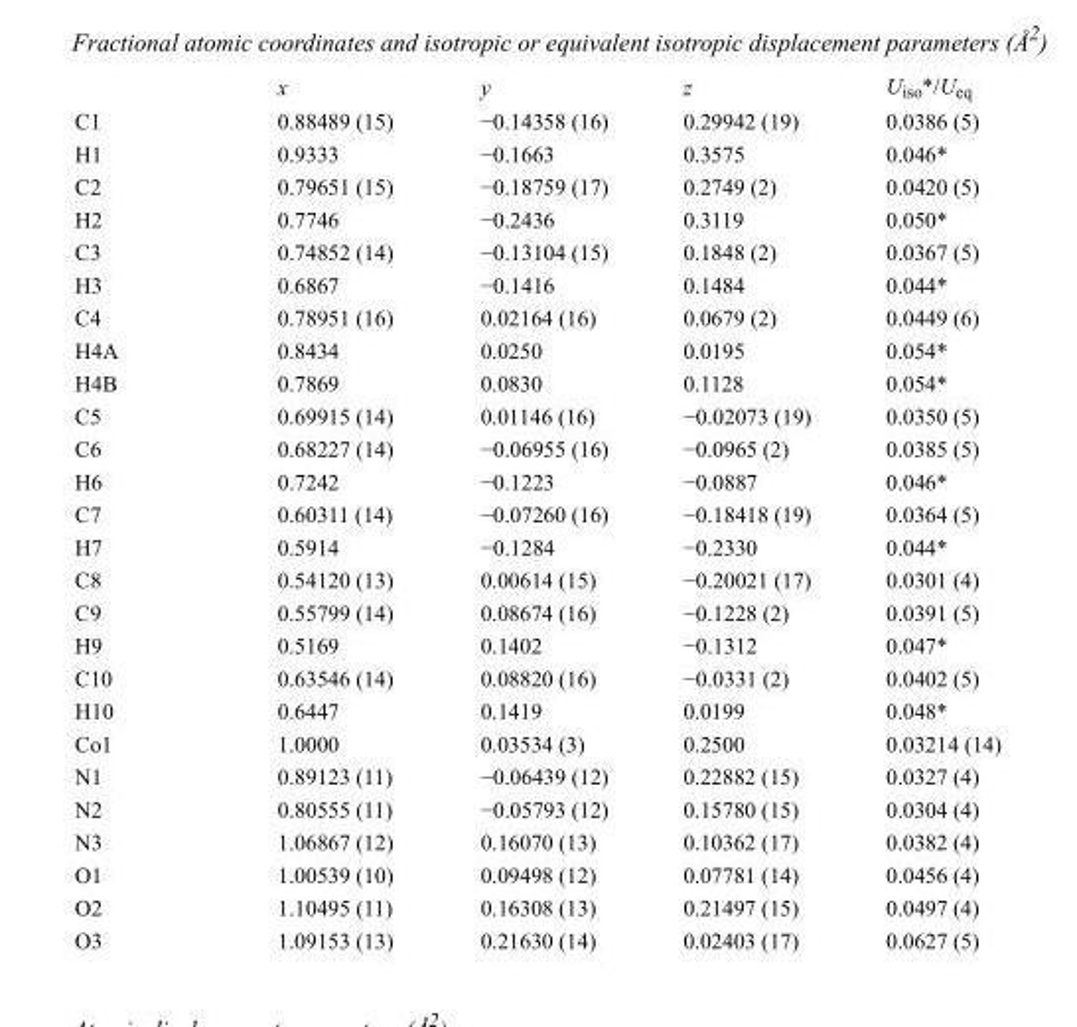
<table><thead><tr><td></td><td>x</td><td>y</td><td>z</td><td>U<sub>iso</sub>*/U<sub>eq</sub></td></tr></thead><tbody><tr><td>C1</td><td>0.88489 (15)</td><td>−0.14358 (16)</td><td>0.29942 (19)</td><td>0.0386 (5)</td></tr><tr><td>H1</td><td>0.9333</td><td>−0.1663</td><td>0.3575</td><td>0.046*</td></tr><tr><td>C2</td><td>0.79651 (15)</td><td>−0.18759 (17)</td><td>0.2749 (2)</td><td>0.0420 (5)</td></tr><tr><td>H2</td><td>0.7746</td><td>−0.2436</td><td>0.3119</td><td>0.050*</td></tr><tr><td>C3</td><td>0.74852 (14)</td><td>−0.13104 (15)</td><td>0.1848 (2)</td><td>0.0367 (5)</td></tr><tr><td>H3</td><td>0.6867</td><td>−0.1416</td><td>0.1484</td><td>0.044*</td></tr><tr><td>C4</td><td>0.78951 (16)</td><td>0.02164 (16)</td><td>0.0679 (2)</td><td>0.0449 (6)</td></tr><tr><td>H4A</td><td>0.8434</td><td>0.0250</td><td>0.0195</td><td>0.054*</td></tr><tr><td>H4B</td><td>0.7869</td><td>0.0830</td><td>0.1128</td><td>0.054*</td></tr><tr><td>C5</td><td>0.69915 (14)</td><td>0.01146 (16)</td><td>−0.02073 (19)</td><td>0.0350 (5)</td></tr><tr><td>C6</td><td>0.68227 (14)</td><td>−0.06955 (16)</td><td>−0.0965 (2)</td><td>0.0385 (5)</td></tr><tr><td>H6</td><td>0.7242</td><td>−0.1223</td><td>−0.0887</td><td>0.046*</td></tr><tr><td>C7</td><td>0.60311 (14)</td><td>−0.07260 (16)</td><td>−0.18418 (19)</td><td>0.0364 (5)</td></tr><tr><td>H7</td><td>0.5914</td><td>−0.1284</td><td>−0.2330</td><td>0.044*</td></tr><tr><td>C8</td><td>0.54120 (13)</td><td>0.00614 (15)</td><td>−0.20021 (17)</td><td>0.0301 (4)</td></tr><tr><td>C9</td><td>0.55799 (14)</td><td>0.08674 (16)</td><td>−0.1228 (2)</td><td>0.0391 (5)</td></tr><tr><td>H9</td><td>0.5169</td><td>0.1402</td><td>−0.1312</td><td>0.047*</td></tr><tr><td>C10</td><td>0.63546 (14)</td><td>0.08820 (16)</td><td>−0.0331 (2)</td><td>0.0402 (5)</td></tr><tr><td>H10</td><td>0.6447</td><td>0.1419</td><td>0.0199</td><td>0.048*</td></tr><tr><td>Co1</td><td>1.0000</td><td>0.03534 (3)</td><td>0.2500</td><td>0.03214 (14)</td></tr><tr><td>N1</td><td>0.89123 (11)</td><td>−0.06439 (12)</td><td>0.22882 (15)</td><td>0.0327 (4)</td></tr><tr><td>N2</td><td>0.80555 (11)</td><td>−0.05793 (12)</td><td>0.15780 (15)</td><td>0.0304 (4)</td></tr><tr><td>N3</td><td>1.06867 (12)</td><td>0.16070 (13)</td><td>0.10362 (17)</td><td>0.0382 (4)</td></tr><tr><td>O1</td><td>1.00539 (10)</td><td>0.09498 (12)</td><td>0.07781 (14)</td><td>0.0456 (4)</td></tr><tr><td>O2</td><td>1.10495 (11)</td><td>0.16308 (13)</td><td>0.21497 (15)</td><td>0.0497 (4)</td></tr><tr><td>O3</td><td>1.09153 (13)</td><td>0.21630 (14)</td><td>0.02403 (17)</td><td>0.0627 (5)</td></tr></tbody></table>